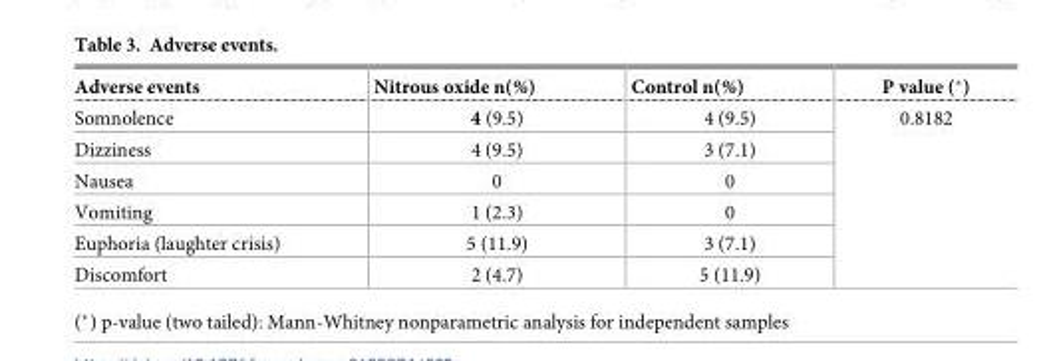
<table><thead><tr><td>Adverse events</td><td>Nitrous oxide n(%)</td><td>Control n(%)</td><td>P value (*)</td></tr></thead><tbody><tr><td>Somnolence</td><td>4 (9.5)</td><td>4 (9.5)</td><td rowspan="6">0.8182</td></tr><tr><td>Dizziness</td><td>4 (9.5)</td><td>3 (7.1)</td></tr><tr><td>Nausea</td><td>0</td><td>0</td></tr><tr><td>Vomiting</td><td>1 (2.3)</td><td>0</td></tr><tr><td>Euphoria (laughter crisis)</td><td>5 (11.9)</td><td>3 (7.1)</td></tr><tr><td>Discomfort</td><td>2 (4.7)</td><td>5 (11.9)</td></tr></tbody></table>